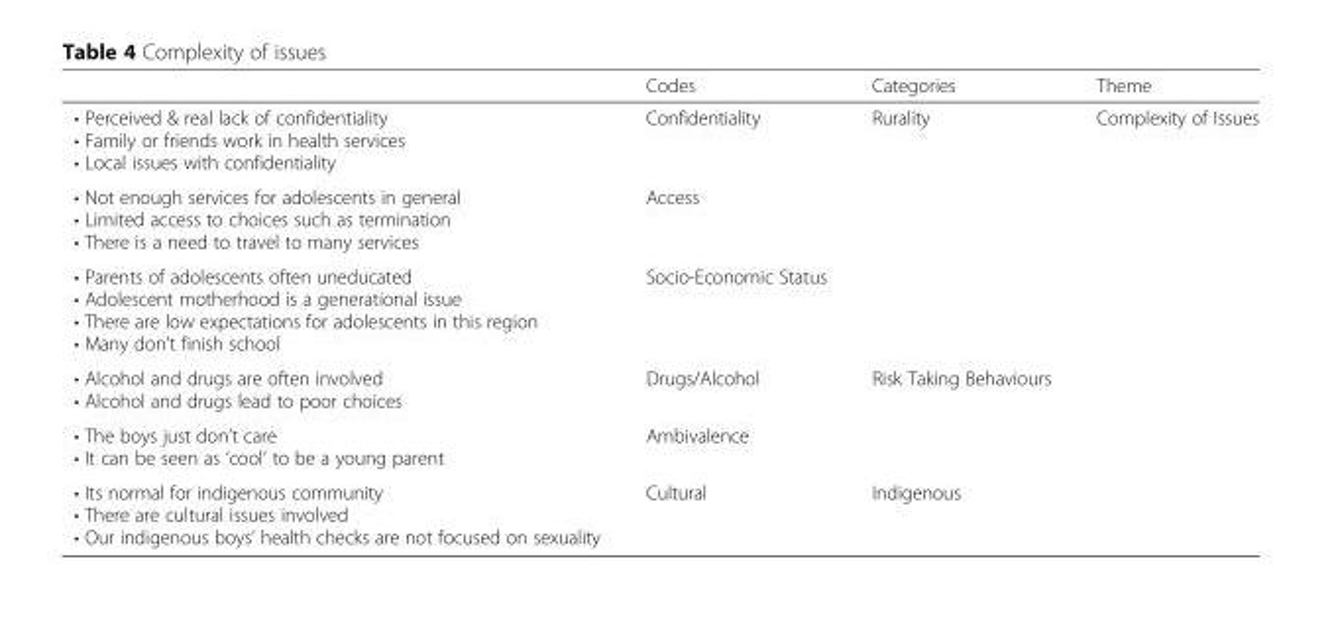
<table><thead><tr><td></td><td>Codes</td><td>Categories</td><td>Theme</td></tr></thead><tbody><tr><td>• Perceived &amp; real lack of confidentiality • Family or friends work in health services • Local issues with confidentiality</td><td>Confidentiality</td><td rowspan="3">Rurality</td><td rowspan="6">Complexity of Issues</td></tr><tr><td>• Not enough services for adolescents in general • Limited access to choices such as termination • There is a need to travel to many services</td><td>Access</td></tr><tr><td>• Parents of adolescents often uneducated • Adolescent motherhood is a generational issue • There are low expectations for adolescents in this region • Many don’t finish school</td><td>Socio-Economic Status</td></tr><tr><td>• Alcohol and drugs are often involved • Alcohol and drugs lead to poor choices</td><td>Drugs/Alcohol</td><td rowspan="2">Risk Taking Behaviours</td></tr><tr><td>• The boys just don’t care • It can be seen as ‘cool’ to be a young parent</td><td>Ambivalence</td></tr><tr><td>• Its normal for indigenous community • There are cultural issues involved • Our indigenous boys’ health checks are not focused on sexuality</td><td>Cultural</td><td>Indigenous</td></tr></tbody></table>